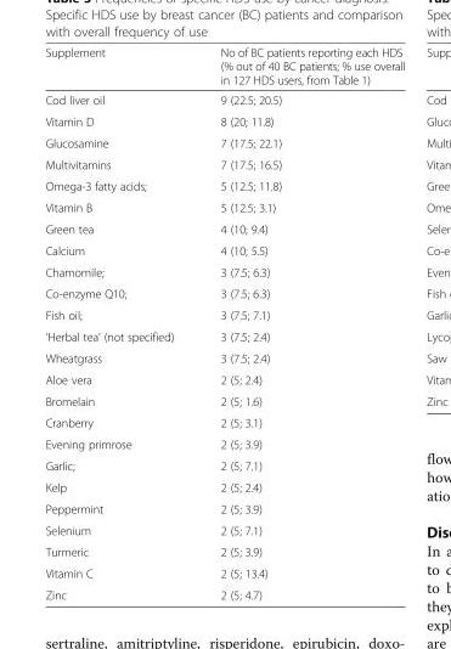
<table><thead><tr><td>Supplement</td><td>No of BC patients reporting each HDS (% out of 40 BC patients; % use overall in 127 HDS users, from Table 1)</td></tr></thead><tbody><tr><td>Cod liver oil</td><td>9 (22.5; 20.5)</td></tr><tr><td>Vitamin D</td><td>8 (20; 11.8)</td></tr><tr><td>Glucosamine</td><td>7 (17.5; 22.1)</td></tr><tr><td>Multivitamins</td><td>7 (17.5; 16.5)</td></tr><tr><td>Omega-3 fatty acids;</td><td>5 (12.5; 11.8)</td></tr><tr><td>Vitamin B</td><td>5 (12.5; 3.1)</td></tr><tr><td>Green tea</td><td>4 (10; 9.4)</td></tr><tr><td>Calcium</td><td>4 (10; 5.5)</td></tr><tr><td>Chamomile;</td><td>3 (7.5; 6.3)</td></tr><tr><td>Co-enzyme Q10;</td><td>3 (7.5; 6.3)</td></tr><tr><td>Fish oil;</td><td>3 (7.5; 7.1)</td></tr><tr><td>‘Herbal tea’ (not specified)</td><td>3 (7.5; 2.4)</td></tr><tr><td>Wheatgrass</td><td>3 (7.5; 2.4)</td></tr><tr><td>Aloe vera</td><td>2 (5; 2.4)</td></tr><tr><td>Bromelain</td><td>2 (5; 1.6)</td></tr><tr><td>Cranberry</td><td>2 (5; 3.1)</td></tr><tr><td>Evening primrose</td><td>2 (5; 3.9)</td></tr><tr><td>Garlic;</td><td>2 (5; 7.1)</td></tr><tr><td>Kelp</td><td>2 (5; 2.4)</td></tr><tr><td>Peppermint</td><td>2 (5; 3.9)</td></tr><tr><td>Selenium</td><td>2 (5; 7.1)</td></tr><tr><td>Turmeric</td><td>2 (5; 3.9)</td></tr><tr><td>Vitamin C</td><td>2 (5; 13.4)</td></tr><tr><td>Zinc</td><td>2 (5; 4.7)</td></tr></tbody></table>